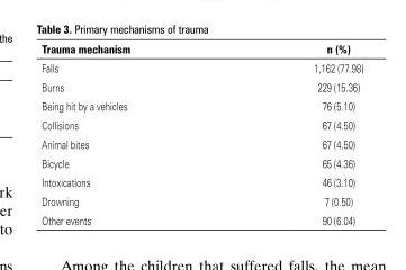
<table><thead><tr><td>Trauma mechanism</td><td>n (%)</td></tr></thead><tbody><tr><td>Falls</td><td>1,162 (77.98)</td></tr><tr><td>Burns</td><td>229 (15.36)</td></tr><tr><td>Being hit by a vehicles</td><td>76 (5.10)</td></tr><tr><td>Collisions</td><td>67 (4.50)</td></tr><tr><td>Animal bites</td><td>67 (4.50)</td></tr><tr><td>Bicycle</td><td>65 (4.36)</td></tr><tr><td>Intoxications</td><td>46 (3.10)</td></tr><tr><td>Drowning</td><td>7 (0.50)</td></tr><tr><td>Other events</td><td>90 (6.04)</td></tr></tbody></table>